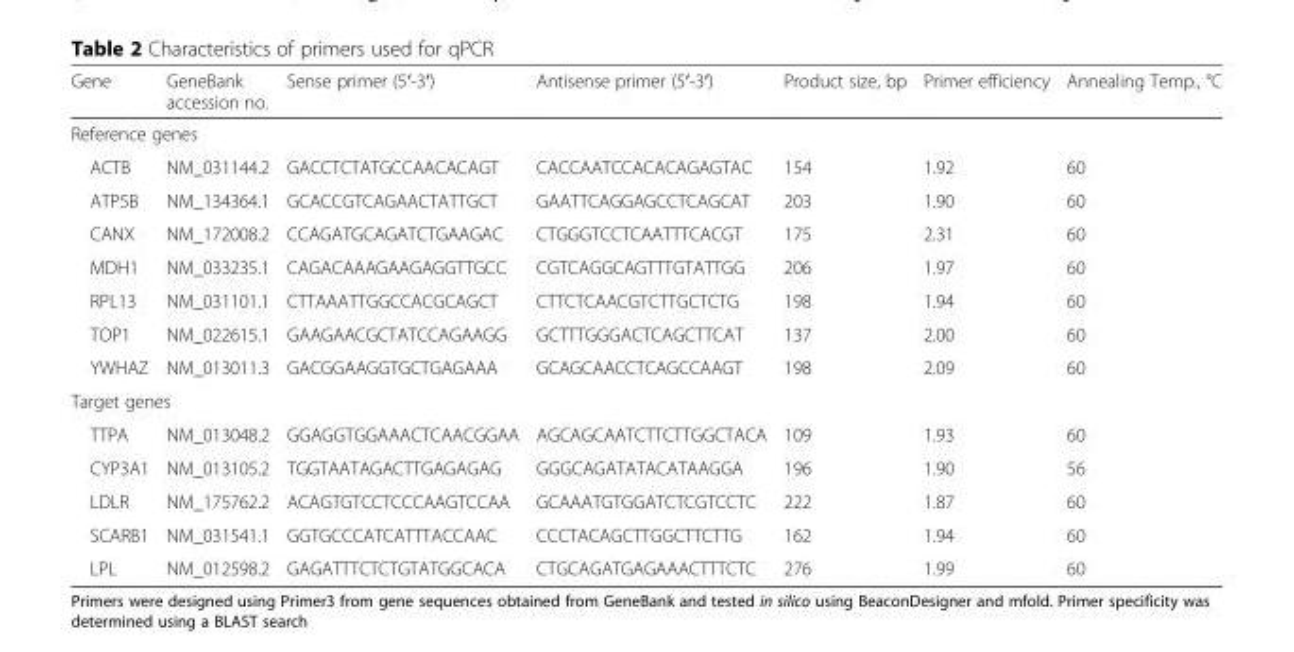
<table><thead><tr><td>Gene</td><td>GeneBank accession no.</td><td>Sense primer (5′-3′)</td><td>Antisense primer (5′-3′)</td><td>Product size, bp</td><td>Primer efficiency</td><td>Annealing Temp., °C</td></tr></thead><tbody><tr><td colspan="7">Reference genes</td></tr><tr><td>ACTB</td><td>NM_031144.2</td><td>GACCTCTATGCCAACACAGT</td><td>CACCAATCCACACAGAGTAC</td><td>154</td><td>1.92</td><td>60</td></tr><tr><td>ATP5B</td><td>NM_134364.1</td><td>GCACCGTCAGAACTATTGCT</td><td>GAATTCAGGAGCCTCAGCAT</td><td>203</td><td>1.90</td><td>60</td></tr><tr><td>CANX</td><td>NM_172008.2</td><td>CCAGATGCAGATCTGAAGAC</td><td>CTGGGTCCTCAATTTCACGT</td><td>175</td><td>2.31</td><td>60</td></tr><tr><td>MDH1</td><td>NM_033235.1</td><td>CAGACAAAGAAGAGGTTGCC</td><td>CGTCAGGCAGTTTGTATTGG</td><td>206</td><td>1.97</td><td>60</td></tr><tr><td>RPL13</td><td>NM_031101.1</td><td>CTTAAATTGGCCACGCAGCT</td><td>CTTCTCAACGTCTTGCTCTG</td><td>198</td><td>1.94</td><td>60</td></tr><tr><td>TOP1</td><td>NM_022615.1</td><td>GAAGAACGCTATCCAGAAGG</td><td>GCTTTGGGACTCAGCTTCAT</td><td>137</td><td>2.00</td><td>60</td></tr><tr><td>YWHAZ</td><td>NM_013011.3</td><td>GACGGAAGGTGCTGAGAAA</td><td>GCAGCAACCTCAGCCAAGT</td><td>198</td><td>2.09</td><td>60</td></tr><tr><td colspan="7">Target genes</td></tr><tr><td>TTPA</td><td>NM_013048.2</td><td>GGAGGTGGAAACTCAACGGAA</td><td>AGCAGCAATCTTCTTGGCTACA</td><td>109</td><td>1.93</td><td>60</td></tr><tr><td>CYP3A1</td><td>NM_013105.2</td><td>TGGTAATAGACTTGAGAGAG</td><td>GGGCAGATATACATAAGGA</td><td>196</td><td>1.90</td><td>56</td></tr><tr><td>LDLR</td><td>NM_175762.2</td><td>ACAGTGTCCTCCCAAGTCCAA</td><td>GCAAATGTGGATCTCGTCCTC</td><td>222</td><td>1.87</td><td>60</td></tr><tr><td>SCARB1</td><td>NM_031541.1</td><td>GGTGCCCATCATTTACCAAC</td><td>CCCTACAGCTTGGCTTCTTG</td><td>162</td><td>1.94</td><td>60</td></tr><tr><td>LPL</td><td>NM_012598.2</td><td>GAGATTTCTCTGTATGGCACA</td><td>CTGCAGATGAGAAACTTTCTC</td><td>276</td><td>1.99</td><td>60</td></tr></tbody></table>